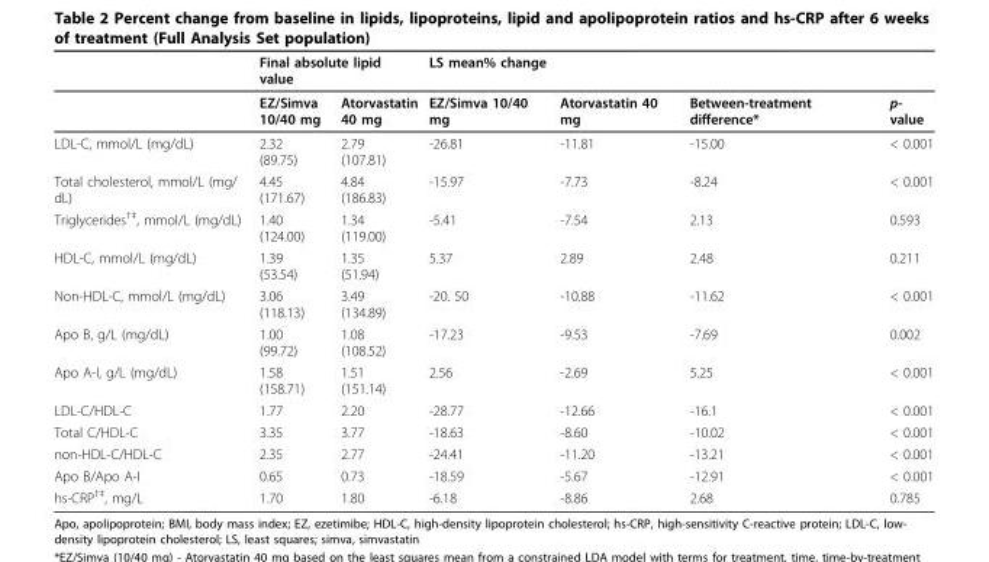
<table><thead><tr><td rowspan="2"></td><td colspan="2">Final absolute lipid value</td><td colspan="2">LS mean% change</td><td rowspan="2">Between-treatment difference*</td><td rowspan="2">p- value</td></tr><tr><td>EZ/Simva 10/40 mg</td><td>Atorvastatin 40 mg</td><td>EZ/Simva 10/40 mg</td><td>Atorvastatin 40 mg</td></tr></thead><tbody><tr><td>LDL-C, mmol/L (mg/dL)</td><td>2.32 (89.75)</td><td>2.79 (107.81)</td><td>-26.81</td><td>-11.81</td><td>-15.00</td><td>&lt; 0.001</td></tr><tr><td>Total cholesterol, mmol/L (mg/ dL)</td><td>4.45 (171.67)</td><td>4.84 (186.83)</td><td>-15.97</td><td>-7.73</td><td>-8.24</td><td>&lt; 0.001</td></tr><tr><td>Triglycerides<sup>†‡</sup>, mmol/L (mg/dL)</td><td>1.40 (124.00)</td><td>1.34 (119.00)</td><td>-5.41</td><td>-7.54</td><td>2.13</td><td>0.593</td></tr><tr><td>HDL-C, mmol/L (mg/dL)</td><td>1.39 (53.54)</td><td>1.35 (51.94)</td><td>5.37</td><td>2.89</td><td>2.48</td><td>0.211</td></tr><tr><td>Non-HDL-C, mmol/L (mg/dL)</td><td>3.06 (118.13)</td><td>3.49 (134.89)</td><td>-20. 50</td><td>-10.88</td><td>-11.62</td><td>&lt; 0.001</td></tr><tr><td>Apo B, g/L (mg/dL)</td><td>1.00 (99.72)</td><td>1.08 (108.52)</td><td>-17.23</td><td>-9.53</td><td>-7.69</td><td>0.002</td></tr><tr><td>Apo A-I, g/L (mg/dL)</td><td>1.58 (158.71)</td><td>1.51 (151.14)</td><td>2.56</td><td>-2.69</td><td>5.25</td><td>&lt; 0.001</td></tr><tr><td>LDL-C/HDL-C</td><td>1.77</td><td>2.20</td><td>-28.77</td><td>-12.66</td><td>-16.1</td><td>&lt; 0.001</td></tr><tr><td>Total C/HDL-C</td><td>3.35</td><td>3.77</td><td>-18.63</td><td>-8.60</td><td>-10.02</td><td>&lt; 0.001</td></tr><tr><td>non-HDL-C/HDL-C</td><td>2.35</td><td>2.77</td><td>-24.41</td><td>-11.20</td><td>-13.21</td><td>&lt; 0.001</td></tr><tr><td>Apo B/Apo A-I</td><td>0.65</td><td>0.73</td><td>-18.59</td><td>-5.67</td><td>-12.91</td><td>&lt; 0.001</td></tr><tr><td>hs-CRP<sup>†‡</sup>, mg/L</td><td>1.70</td><td>1.80</td><td>-6.18</td><td>-8.86</td><td>2.68</td><td>0.785</td></tr></tbody></table>